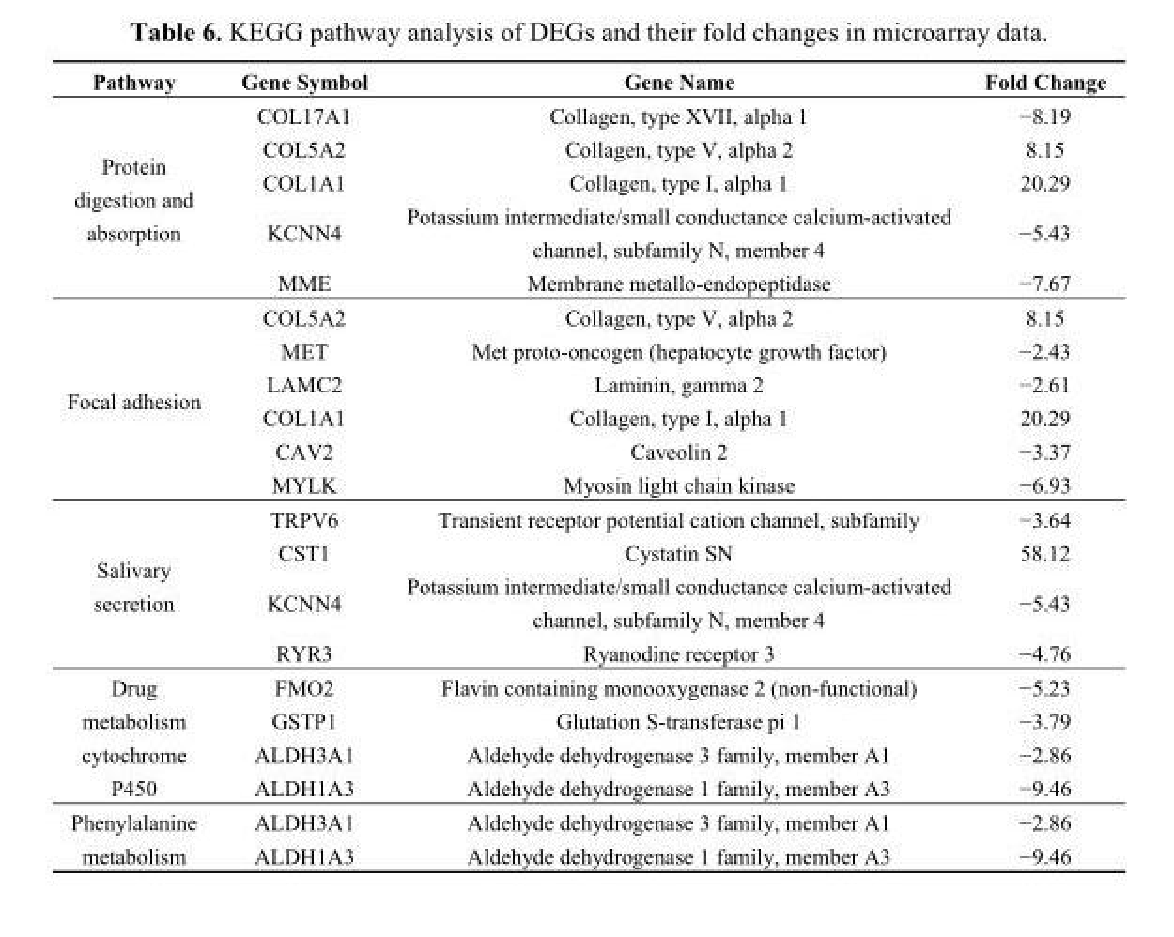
<table><thead><tr><td>Pathway</td><td>Gene Symbol</td><td>Gene Name</td><td>Fold Change</td></tr></thead><tbody><tr><td rowspan="5">Protein digestion and absorption</td><td>COL17A1</td><td>Collagen, type XVII, alpha 1</td><td>−8.19</td></tr><tr><td>COL5A2</td><td>Collagen, type V, alpha 2</td><td>8.15</td></tr><tr><td>COL1A1</td><td>Collagen, type I, alpha 1</td><td>20.29</td></tr><tr><td>KCNN4</td><td>Potassium intermediate/small conductance calcium-activated channel, subfamily N, member 4</td><td>−5.43</td></tr><tr><td>MME</td><td>Membrane metallo-endopeptidase</td><td>−7.67</td></tr><tr><td rowspan="6">Focal adhesion</td><td>COL5A2</td><td>Collagen, type V, alpha 2</td><td>8.15</td></tr><tr><td>MET</td><td>Met proto-oncogen (hepatocyte growth factor)</td><td>−2.43</td></tr><tr><td>LAMC2</td><td>Laminin, gamma 2</td><td>−2.61</td></tr><tr><td>COL1A1</td><td>Collagen, type I, alpha 1</td><td>20.29</td></tr><tr><td>CAV2</td><td>Caveolin 2</td><td>−3.37</td></tr><tr><td>MYLK</td><td>Myosin light chain kinase</td><td>−6.93</td></tr><tr><td rowspan="4">Salivary secretion</td><td>TRPV6</td><td>Transient receptor potential cation channel, subfamily</td><td>−3.64</td></tr><tr><td>CST1</td><td>Cystatin SN</td><td>58.12</td></tr><tr><td>KCNN4</td><td>Potassium intermediate/small conductance calcium-activated channel, subfamily N, member 4</td><td>−5.43</td></tr><tr><td>RYR3</td><td>Ryanodine receptor 3</td><td>−4.76</td></tr><tr><td rowspan="4">Drug metabolism cytochrome P450</td><td>FMO2</td><td>Flavin containing monooxygenase 2 (non-functional)</td><td>−5.23</td></tr><tr><td>GSTP1</td><td>Glutation S-transferase pi 1</td><td>−3.79</td></tr><tr><td>ALDH3A1</td><td>Aldehyde dehydrogenase 3 family, member A1</td><td>−2.86</td></tr><tr><td>ALDH1A3</td><td>Aldehyde dehydrogenase 1 family, member A3</td><td>−9.46</td></tr><tr><td rowspan="2">Phenylalanine metabolism</td><td>ALDH3A1</td><td>Aldehyde dehydrogenase 3 family, member A1</td><td>−2.86</td></tr><tr><td>ALDH1A3</td><td>Aldehyde dehydrogenase 1 family, member A3</td><td>−9.46</td></tr></tbody></table>